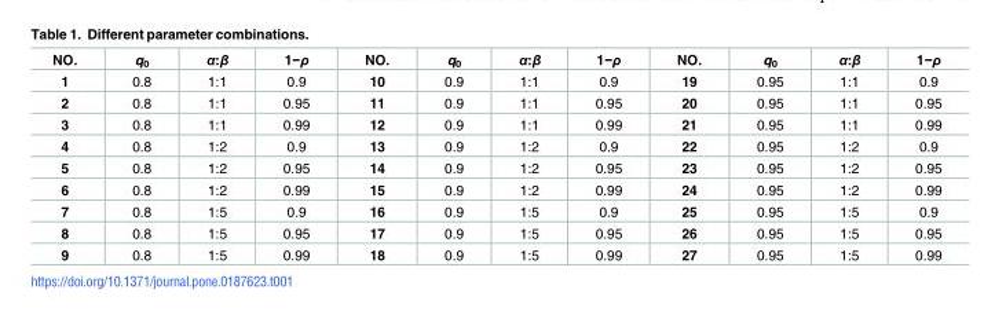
<table><thead><tr><td>NO.</td><td>q<sub>0</sub></td><td>α:β</td><td>1−ρ</td><td>NO.</td><td>q<sub>0</sub></td><td>α:β</td><td>1−ρ</td><td>NO.</td><td>q<sub>0</sub></td><td>α:β</td><td>1−ρ</td></tr></thead><tbody><tr><td>1</td><td>0.8</td><td>1:1</td><td>0.9</td><td>10</td><td>0.9</td><td>1:1</td><td>0.9</td><td>19</td><td>0.95</td><td>1:1</td><td>0.9</td></tr><tr><td>2</td><td>0.8</td><td>1:1</td><td>0.95</td><td>11</td><td>0.9</td><td>1:1</td><td>0.95</td><td>20</td><td>0.95</td><td>1:1</td><td>0.95</td></tr><tr><td>3</td><td>0.8</td><td>1:1</td><td>0.99</td><td>12</td><td>0.9</td><td>1:1</td><td>0.99</td><td>21</td><td>0.95</td><td>1:1</td><td>0.99</td></tr><tr><td>4</td><td>0.8</td><td>1:2</td><td>0.9</td><td>13</td><td>0.9</td><td>1:2</td><td>0.9</td><td>22</td><td>0.95</td><td>1:2</td><td>0.9</td></tr><tr><td>5</td><td>0.8</td><td>1:2</td><td>0.95</td><td>14</td><td>0.9</td><td>1:2</td><td>0.95</td><td>23</td><td>0.95</td><td>1:2</td><td>0.95</td></tr><tr><td>6</td><td>0.8</td><td>1:2</td><td>0.99</td><td>15</td><td>0.9</td><td>1:2</td><td>0.99</td><td>24</td><td>0.95</td><td>1:2</td><td>0.99</td></tr><tr><td>7</td><td>0.8</td><td>1:5</td><td>0.9</td><td>16</td><td>0.9</td><td>1:5</td><td>0.9</td><td>25</td><td>0.95</td><td>1:5</td><td>0.9</td></tr><tr><td>8</td><td>0.8</td><td>1:5</td><td>0.95</td><td>17</td><td>0.9</td><td>1:5</td><td>0.95</td><td>26</td><td>0.95</td><td>1:5</td><td>0.95</td></tr><tr><td>9</td><td>0.8</td><td>1:5</td><td>0.99</td><td>18</td><td>0.9</td><td>1:5</td><td>0.99</td><td>27</td><td>0.95</td><td>1:5</td><td>0.99</td></tr></tbody></table>